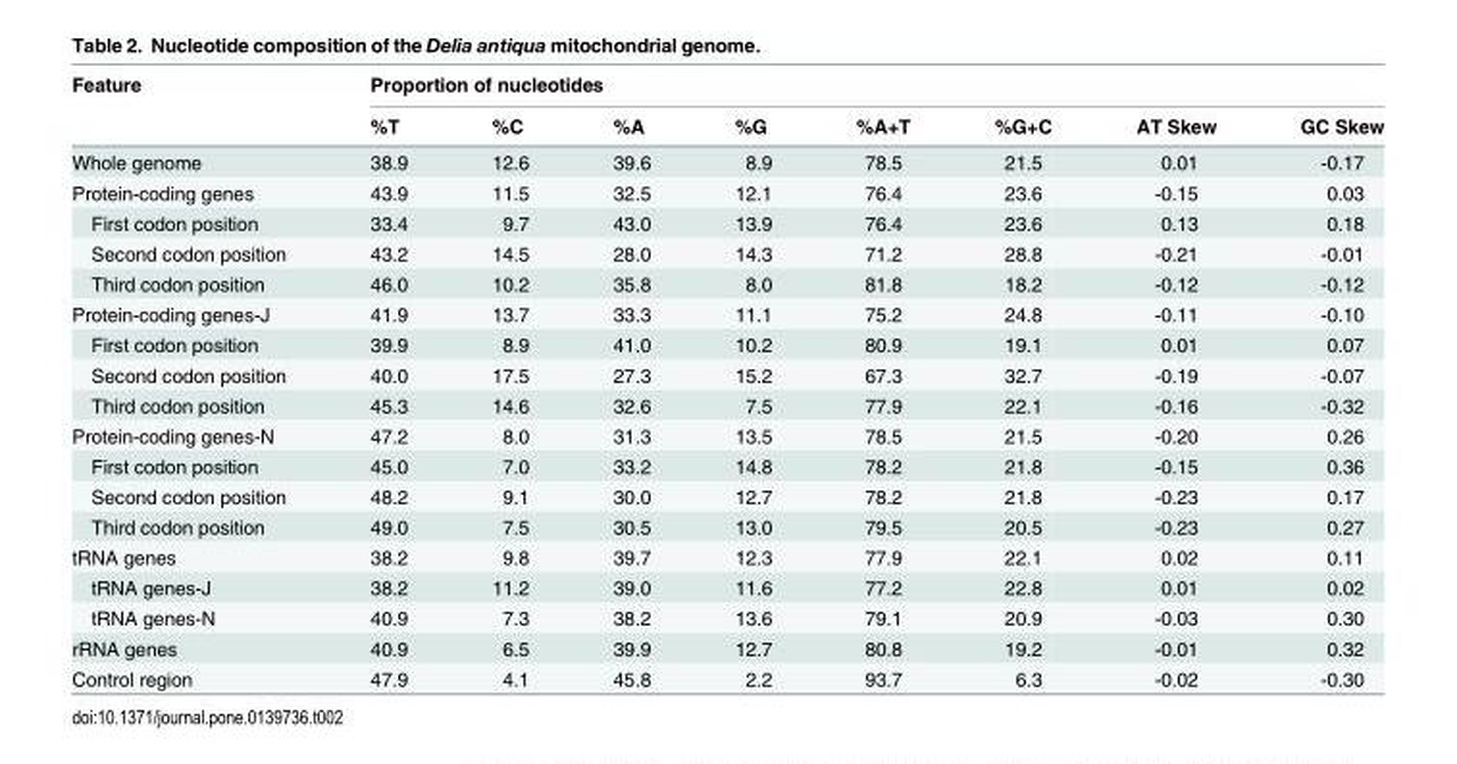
<table><thead><tr><td rowspan="2">Feature</td><td colspan="8">Proportion of nucleotides</td></tr><tr><td>%T</td><td>%C</td><td>%A</td><td>%G</td><td>%A+T</td><td>%G+C</td><td>AT Skew</td><td>GC Skew</td></tr></thead><tbody><tr><td>Whole genome</td><td>38.9</td><td>12.6</td><td>39.6</td><td>8.9</td><td>78.5</td><td>21.5</td><td>0.01</td><td>-0.17</td></tr><tr><td>Protein-coding genes</td><td>43.9</td><td>11.5</td><td>32.5</td><td>12.1</td><td>76.4</td><td>23.6</td><td>-0.15</td><td>0.03</td></tr><tr><td>First codon position</td><td>33.4</td><td>9.7</td><td>43.0</td><td>13.9</td><td>76.4</td><td>23.6</td><td>0.13</td><td>0.18</td></tr><tr><td>Second codon position</td><td>43.2</td><td>14.5</td><td>28.0</td><td>14.3</td><td>71.2</td><td>28.8</td><td>-0.21</td><td>-0.01</td></tr><tr><td>Third codon position</td><td>46.0</td><td>10.2</td><td>35.8</td><td>8.0</td><td>81.8</td><td>18.2</td><td>-0.12</td><td>-0.12</td></tr><tr><td>Protein-coding genes-J</td><td>41.9</td><td>13.7</td><td>33.3</td><td>11.1</td><td>75.2</td><td>24.8</td><td>-0.11</td><td>-0.10</td></tr><tr><td>First codon position</td><td>39.9</td><td>8.9</td><td>41.0</td><td>10.2</td><td>80.9</td><td>19.1</td><td>0.01</td><td>0.07</td></tr><tr><td>Second codon position</td><td>40.0</td><td>17.5</td><td>27.3</td><td>15.2</td><td>67.3</td><td>32.7</td><td>-0.19</td><td>-0.07</td></tr><tr><td>Third codon position</td><td>45.3</td><td>14.6</td><td>32.6</td><td>7.5</td><td>77.9</td><td>22.1</td><td>-0.16</td><td>-0.32</td></tr><tr><td>Protein-coding genes-N</td><td>47.2</td><td>8.0</td><td>31.3</td><td>13.5</td><td>78.5</td><td>21.5</td><td>-0.20</td><td>0.26</td></tr><tr><td>First codon position</td><td>45.0</td><td>7.0</td><td>33.2</td><td>14.8</td><td>78.2</td><td>21.8</td><td>-0.15</td><td>0.36</td></tr><tr><td>Second codon position</td><td>48.2</td><td>9.1</td><td>30.0</td><td>12.7</td><td>78.2</td><td>21.8</td><td>-0.23</td><td>0.17</td></tr><tr><td>Third codon position</td><td>49.0</td><td>7.5</td><td>30.5</td><td>13.0</td><td>79.5</td><td>20.5</td><td>-0.23</td><td>0.27</td></tr><tr><td>tRNA genes</td><td>38.2</td><td>9.8</td><td>39.7</td><td>12.3</td><td>77.9</td><td>22.1</td><td>0.02</td><td>0.11</td></tr><tr><td>tRNA genes-J</td><td>38.2</td><td>11.2</td><td>39.0</td><td>11.6</td><td>77.2</td><td>22.8</td><td>0.01</td><td>0.02</td></tr><tr><td>tRNA genes-N</td><td>40.9</td><td>7.3</td><td>38.2</td><td>13.6</td><td>79.1</td><td>20.9</td><td>-0.03</td><td>0.30</td></tr><tr><td>rRNA genes</td><td>40.9</td><td>6.5</td><td>39.9</td><td>12.7</td><td>80.8</td><td>19.2</td><td>-0.01</td><td>0.32</td></tr><tr><td>Control region</td><td>47.9</td><td>4.1</td><td>45.8</td><td>2.2</td><td>93.7</td><td>6.3</td><td>-0.02</td><td>-0.30</td></tr></tbody></table>